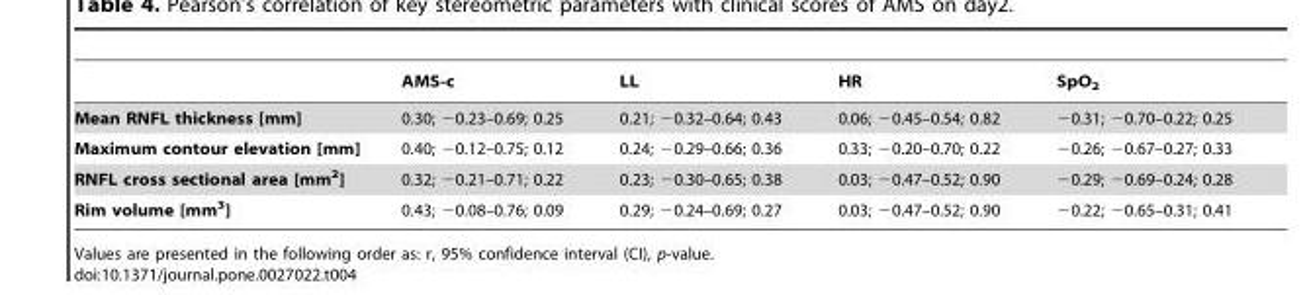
<table><thead><tr><td></td><td>AMS-c</td><td>LL</td><td>HR</td><td>SpO<sub>2</sub></td></tr></thead><tbody><tr><td>Mean RNFL thickness [mm]</td><td>0.30; −0.23–0.69; 0.25</td><td>0.21; −0.32–0.64; 0.43</td><td>0.06; −0.45–0.54; 0.82</td><td>−0.31; −0.70–0.22; 0.25</td></tr><tr><td>Maximum contour elevation [mm]</td><td>0.40; −0.12–0.75; 0.12</td><td>0.24; −0.29–0.66; 0.36</td><td>0.33; −0.20–0.70; 0.22</td><td>−0.26; −0.67–0.27; 0.33</td></tr><tr><td>RNFL cross sectional area [mm<sup>2</sup>]</td><td>0.32; −0.21–0.71; 0.22</td><td>0.23; −0.30–0.65; 0.38</td><td>0.03; −0.47–0.52; 0.90</td><td>−0.29; −0.69–0.24; 0.28</td></tr><tr><td>Rim volume [mm<sup>3</sup>]</td><td>0.43; −0.08–0.76; 0.09</td><td>0.29; −0.24–0.69; 0.27</td><td>0.03; −0.47–0.52; 0.90</td><td>−0.22; −0.65–0.31; 0.41</td></tr></tbody></table>